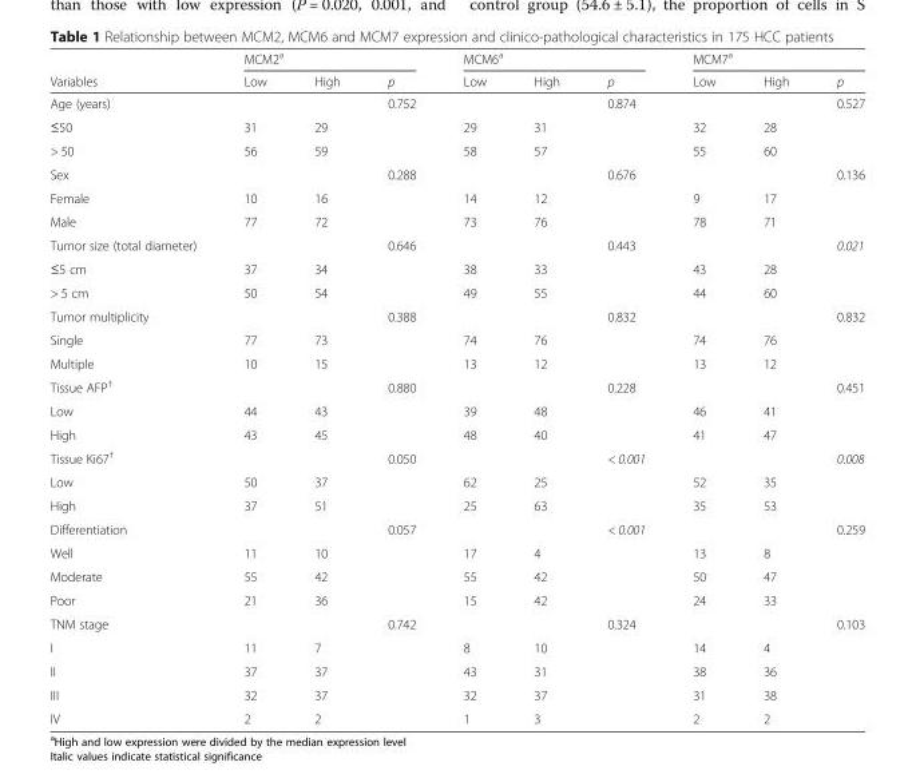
<table><thead><tr><td rowspan="2">Variables</td><td colspan="3">MCM2<sup>a</sup></td><td colspan="3">MCM6<sup>a</sup></td><td colspan="3">MCM7<sup>a</sup></td></tr><tr><td>Low</td><td>High</td><td>p</td><td>Low</td><td>High</td><td>p</td><td>Low</td><td>High</td><td>p</td></tr></thead><tbody><tr><td>Age (years)</td><td></td><td></td><td>0.752</td><td></td><td></td><td>0.874</td><td></td><td></td><td>0.527</td></tr><tr><td>≤50</td><td>31</td><td>29</td><td></td><td>29</td><td>31</td><td></td><td>32</td><td>28</td><td></td></tr><tr><td>&gt; 50</td><td>56</td><td>59</td><td></td><td>58</td><td>57</td><td></td><td>55</td><td>60</td><td></td></tr><tr><td>Sex</td><td></td><td></td><td>0.288</td><td></td><td></td><td>0.676</td><td></td><td></td><td>0.136</td></tr><tr><td>Female</td><td>10</td><td>16</td><td></td><td>14</td><td>12</td><td></td><td>9</td><td>17</td><td></td></tr><tr><td>Male</td><td>77</td><td>72</td><td></td><td>73</td><td>76</td><td></td><td>78</td><td>71</td><td></td></tr><tr><td>Tumor size (total diameter)</td><td></td><td></td><td>0.646</td><td></td><td></td><td>0.443</td><td></td><td></td><td>0.021</td></tr><tr><td>≤5 cm</td><td>37</td><td>34</td><td></td><td>38</td><td>33</td><td></td><td>43</td><td>28</td><td></td></tr><tr><td>&gt; 5 cm</td><td>50</td><td>54</td><td></td><td>49</td><td>55</td><td></td><td>44</td><td>60</td><td></td></tr><tr><td>Tumor multiplicity</td><td></td><td></td><td>0.388</td><td></td><td></td><td>0.832</td><td></td><td></td><td>0.832</td></tr><tr><td>Single</td><td>77</td><td>73</td><td></td><td>74</td><td>76</td><td></td><td>74</td><td>76</td><td></td></tr><tr><td>Multiple</td><td>10</td><td>15</td><td></td><td>13</td><td>12</td><td></td><td>13</td><td>12</td><td></td></tr><tr><td>Tissue AFP<sup>†</sup></td><td></td><td></td><td>0.880</td><td></td><td></td><td>0.228</td><td></td><td></td><td>0.451</td></tr><tr><td>Low</td><td>44</td><td>43</td><td></td><td>39</td><td>48</td><td></td><td>46</td><td>41</td><td></td></tr><tr><td>High</td><td>43</td><td>45</td><td></td><td>48</td><td>40</td><td></td><td>41</td><td>47</td><td></td></tr><tr><td>Tissue Ki67<sup>†</sup></td><td></td><td></td><td>0.050</td><td></td><td></td><td>&lt; 0.001</td><td></td><td></td><td>0.008</td></tr><tr><td>Low</td><td>50</td><td>37</td><td></td><td>62</td><td>25</td><td></td><td>52</td><td>35</td><td></td></tr><tr><td>High</td><td>37</td><td>51</td><td></td><td>25</td><td>63</td><td></td><td>35</td><td>53</td><td></td></tr><tr><td>Differentiation</td><td></td><td></td><td>0.057</td><td></td><td></td><td>&lt; 0.001</td><td></td><td></td><td>0.259</td></tr><tr><td>Well</td><td>11</td><td>10</td><td></td><td>17</td><td>4</td><td></td><td>13</td><td>8</td><td></td></tr><tr><td>Moderate</td><td>55</td><td>42</td><td></td><td>55</td><td>42</td><td></td><td>50</td><td>47</td><td></td></tr><tr><td>Poor</td><td>21</td><td>36</td><td></td><td>15</td><td>42</td><td></td><td>24</td><td>33</td><td></td></tr><tr><td>TNM stage</td><td></td><td></td><td>0.742</td><td></td><td></td><td>0.324</td><td></td><td></td><td>0.103</td></tr><tr><td>I</td><td>11</td><td>7</td><td></td><td>8</td><td>10</td><td></td><td>14</td><td>4</td><td></td></tr><tr><td>II</td><td>37</td><td>37</td><td></td><td>43</td><td>31</td><td></td><td>38</td><td>36</td><td></td></tr><tr><td>III</td><td>32</td><td>37</td><td></td><td>32</td><td>37</td><td></td><td>31</td><td>38</td><td></td></tr><tr><td>IV</td><td>2</td><td>2</td><td></td><td>1</td><td>3</td><td></td><td>2</td><td>2</td><td></td></tr></tbody></table>